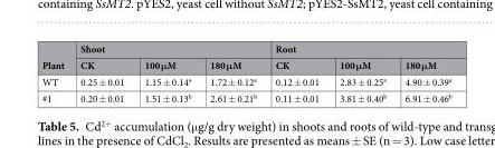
<table><thead><tr><td rowspan="2">Plant</td><td colspan="3">Shoot</td><td colspan="3">Root</td></tr><tr><td>CK</td><td>100 μM</td><td>180 μM</td><td>CK</td><td>100 μM</td><td>180 μM</td></tr></thead><tbody><tr><td>WT</td><td>0.25 ± 0.01</td><td>1.15 ± 0.14<sup>a</sup></td><td>1.72 ± 0.12<sup>a</sup></td><td>0.12 ± 0.01</td><td>2.83 ± 0.25<sup>a</sup></td><td>4.90 ± 0.39<sup>a</sup></td></tr><tr><td>#1</td><td>0.20 ± 0.01</td><td>1.51 ± 0.13<sup>b</sup></td><td>2.61 ± 0.21<sup>b</sup></td><td>0.11 ± 0.01</td><td>3.81 ± 0.40<sup>b</sup></td><td>6.91 ± 0.46<sup>b</sup></td></tr></tbody></table>